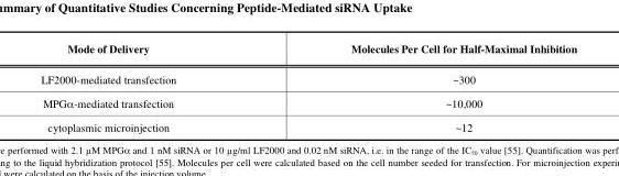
<table><thead><tr><td>Mode of Delivery</td><td>Molecules Per Cell for Half-Maximal Inhibition</td></tr></thead><tbody><tr><td>LF2000-mediated transfection</td><td>~300</td></tr><tr><td>MPGα-mediated transfection</td><td>~10,000</td></tr><tr><td>cytoplasmic microinjection</td><td>~12</td></tr></tbody></table>